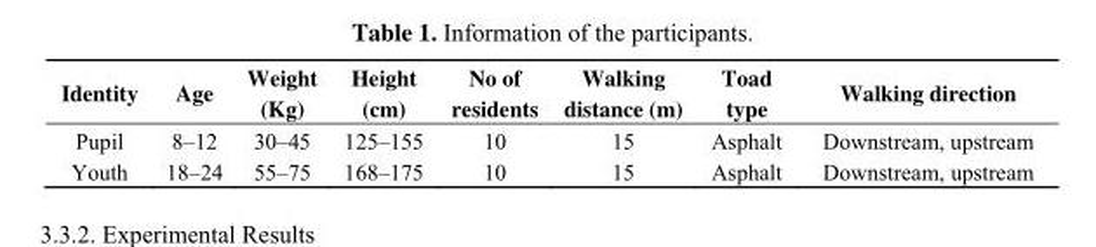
<table><thead><tr><td>Identity</td><td>Age</td><td>Weight (Kg)</td><td>Height (cm)</td><td>No of residents</td><td>Walking distance (m)</td><td>Toad type</td><td>Walking direction</td></tr></thead><tbody><tr><td>Pupil</td><td>8–12</td><td>30–45</td><td>125–155</td><td>10</td><td>15</td><td>Asphalt</td><td>Downstream, upstream</td></tr><tr><td>Youth</td><td>18–24</td><td>55–75</td><td>168–175</td><td>10</td><td>15</td><td>Asphalt</td><td>Downstream, upstream</td></tr></tbody></table>